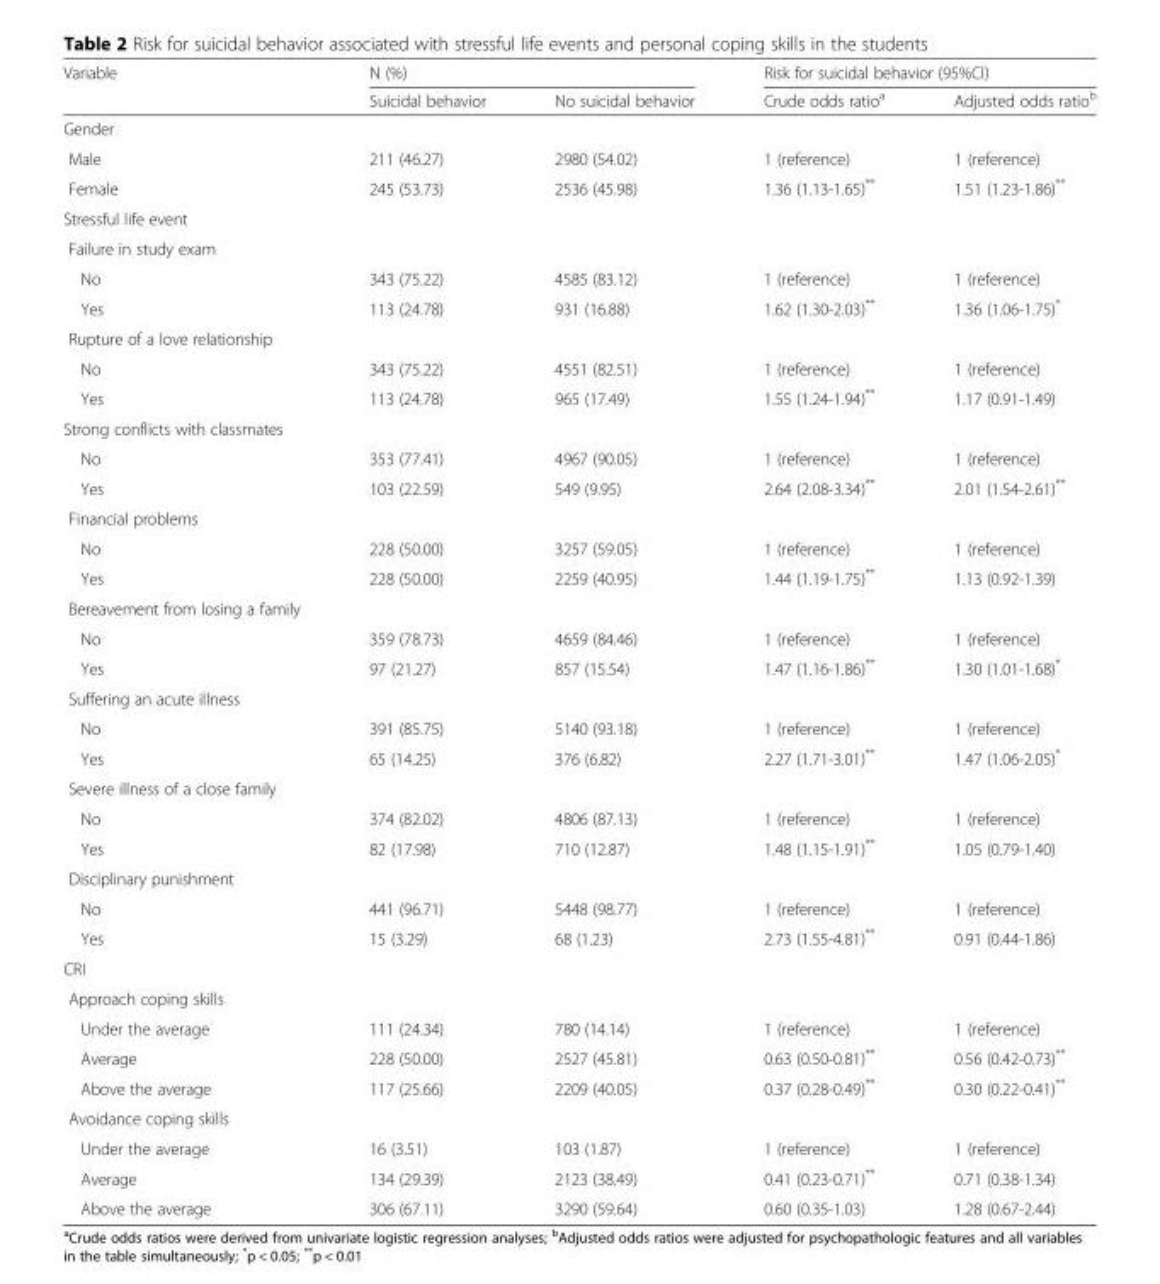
<table><thead><tr><td rowspan="2">Variable</td><td colspan="2">N (%)</td><td colspan="2">Risk for suicidal behavior (95%CI)</td></tr><tr><td>Suicidal behavior</td><td>No suicidal behavior</td><td>Crude odds ratio<sup>a</sup></td><td>Adjusted odds ratio<sup>b</sup></td></tr></thead><tbody><tr><td colspan="5">Gender</td></tr><tr><td>Male</td><td>211 (46.27)</td><td>2980 (54.02)</td><td>1 (reference)</td><td>1 (reference)</td></tr><tr><td>Female</td><td>245 (53.73)</td><td>2536 (45.98)</td><td>1.36 (1.13-1.65)**</td><td>1.51 (1.23-1.86)**</td></tr><tr><td colspan="5">Stressful life event</td></tr><tr><td colspan="5">Failure in study exam</td></tr><tr><td>No</td><td>343 (75.22)</td><td>4585 (83.12)</td><td>1 (reference)</td><td>1 (reference)</td></tr><tr><td>Yes</td><td>113 (24.78)</td><td>931 (16.88)</td><td>1.62 (1.30-2.03)**</td><td>1.36 (1.06-1.75)*</td></tr><tr><td colspan="5">Rupture of a love relationship</td></tr><tr><td>No</td><td>343 (75.22)</td><td>4551 (82.51)</td><td>1 (reference)</td><td>1 (reference)</td></tr><tr><td>Yes</td><td>113 (24.78)</td><td>965 (17.49)</td><td>1.55 (1.24-1.94)**</td><td>1.17 (0.91-1.49)</td></tr><tr><td colspan="5">Strong conflicts with classmates</td></tr><tr><td>No</td><td>353 (77.41)</td><td>4967 (90.05)</td><td>1 (reference)</td><td>1 (reference)</td></tr><tr><td>Yes</td><td>103 (22.59)</td><td>549 (9.95)</td><td>2.64 (2.08-3.34)**</td><td>2.01 (1.54-2.61)**</td></tr><tr><td colspan="5">Financial problems</td></tr><tr><td>No</td><td>228 (50.00)</td><td>3257 (59.05)</td><td>1 (reference)</td><td>1 (reference)</td></tr><tr><td>Yes</td><td>228 (50.00)</td><td>2259 (40.95)</td><td>1.44 (1.19-1.75)**</td><td>1.13 (0.92-1.39)</td></tr><tr><td colspan="5">Bereavement from losing a family</td></tr><tr><td>No</td><td>359 (78.73)</td><td>4659 (84.46)</td><td>1 (reference)</td><td>1 (reference)</td></tr><tr><td>Yes</td><td>97 (21.27)</td><td>857 (15.54)</td><td>1.47 (1.16-1.86)**</td><td>1.30 (1.01-1.68)*</td></tr><tr><td colspan="5">Suffering an acute illness</td></tr><tr><td>No</td><td>391 (85.75)</td><td>5140 (93.18)</td><td>1 (reference)</td><td>1 (reference)</td></tr><tr><td>Yes</td><td>65 (14.25)</td><td>376 (6.82)</td><td>2.27 (1.71-3.01)**</td><td>1.47 (1.06-2.05)*</td></tr><tr><td colspan="5">Severe illness of a close family</td></tr><tr><td>No</td><td>374 (82.02)</td><td>4806 (87.13)</td><td>1 (reference)</td><td>1 (reference)</td></tr><tr><td>Yes</td><td>82 (17.98)</td><td>710 (12.87)</td><td>1.48 (1.15-1.91)**</td><td>1.05 (0.79-1.40)</td></tr><tr><td colspan="5">Disciplinary punishment</td></tr><tr><td>No</td><td>441 (96.71)</td><td>5448 (98.77)</td><td>1 (reference)</td><td>1 (reference)</td></tr><tr><td>Yes</td><td>15 (3.29)</td><td>68 (1.23)</td><td>2.73 (1.55-4.81)**</td><td>0.91 (0.44-1.86)</td></tr><tr><td colspan="5">CRI</td></tr><tr><td colspan="5">Approach coping skills</td></tr><tr><td>Under the average</td><td>111 (24.34)</td><td>780 (14.14)</td><td>1 (reference)</td><td>1 (reference)</td></tr><tr><td>Average</td><td>228 (50.00)</td><td>2527 (45.81)</td><td>0.63 (0.50-0.81)**</td><td>0.56 (0.42-0.73)**</td></tr><tr><td>Above the average</td><td>117 (25.66)</td><td>2209 (40.05)</td><td>0.37 (0.28-0.49)**</td><td>0.30 (0.22-0.41)**</td></tr><tr><td colspan="5">Avoidance coping skills</td></tr><tr><td>Under the average</td><td>16 (3.51)</td><td>103 (1.87)</td><td>1 (reference)</td><td>1 (reference)</td></tr><tr><td>Average</td><td>134 (29.39)</td><td>2123 (38.49)</td><td>0.41 (0.23-0.71)**</td><td>0.71 (0.38-1.34)</td></tr><tr><td>Above the average</td><td>306 (67.11)</td><td>3290 (59.64)</td><td>0.60 (0.35-1.03)</td><td>1.28 (0.67-2.44)</td></tr></tbody></table>